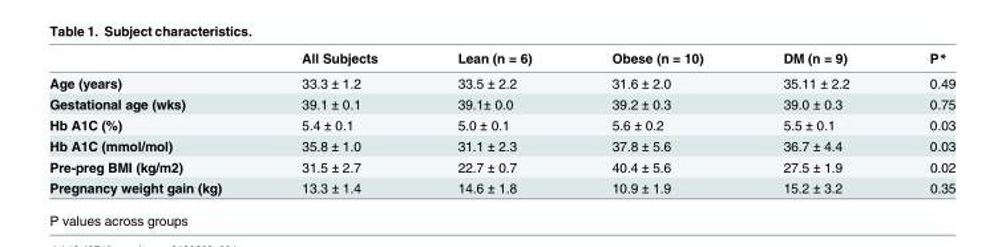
<table><thead><tr><td></td><td>All Subjects</td><td>Lean (n = 6)</td><td>Obese (n = 10)</td><td>DM (n = 9)</td><td>P*</td></tr></thead><tbody><tr><td>Age (years)</td><td>33.3 ± 1.2</td><td>33.5 ± 2.2</td><td>31.6 ± 2.0</td><td>35.11 ± 2.2</td><td>0.49</td></tr><tr><td>Gestational age (wks)</td><td>39.1 ± 0.1</td><td>39.1± 0.0</td><td>39.2 ± 0.3</td><td>39.0 ± 0.3</td><td>0.75</td></tr><tr><td>Hb A1C (%)</td><td>5.4 ± 0.1</td><td>5.0 ± 0.1</td><td>5.6 ± 0.2</td><td>5.5 ± 0.1</td><td>0.03</td></tr><tr><td>Hb A1C (mmol/mol)</td><td>35.8 ± 1.0</td><td>31.1 ± 2.3</td><td>37.8 ± 5.6</td><td>36.7 ± 4.4</td><td>0.03</td></tr><tr><td>Pre-preg BMI (kg/m2)</td><td>31.5 ± 2.7</td><td>22.7 ± 0.7</td><td>40.4 ± 5.6</td><td>27.5 ± 1.9</td><td>0.02</td></tr><tr><td>Pregnancy weight gain (kg)</td><td>13.3 ± 1.4</td><td>14.6 ± 1.8</td><td>10.9 ± 1.9</td><td>15.2 ± 3.2</td><td>0.35</td></tr></tbody></table>